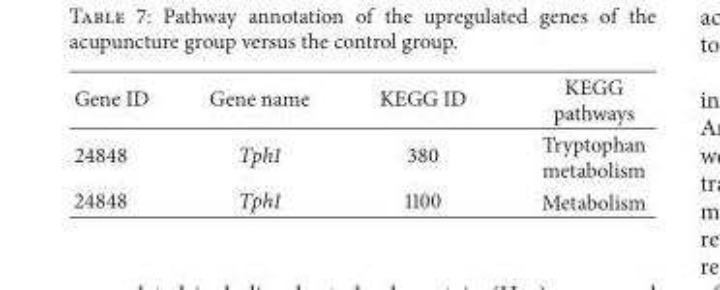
<table><thead><tr><td>Gene ID</td><td>Gene name</td><td>KEGG ID</td><td>KEGG pathways</td></tr></thead><tbody><tr><td>24848</td><td>Tph1</td><td>380</td><td>Tryptophan metabolism</td></tr><tr><td>24848</td><td>Tph1</td><td>1100</td><td>Metabolism</td></tr></tbody></table>